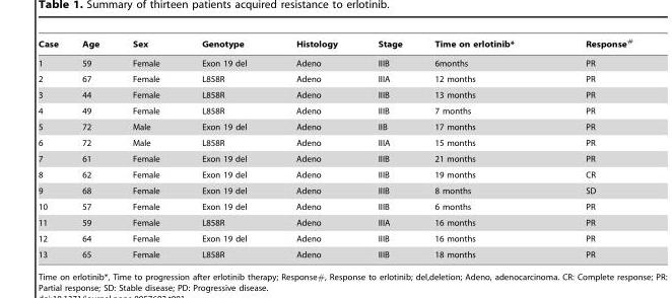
<table><thead><tr><td>Case</td><td>Age</td><td>Sex</td><td>Genotype</td><td>Histology</td><td>Stage</td><td>Time on erlotinib*</td><td>Response<sup>#</sup></td></tr></thead><tbody><tr><td>1</td><td>59</td><td>Female</td><td>Exon 19 del</td><td>Adeno</td><td>IIIB</td><td>6months</td><td>PR</td></tr><tr><td>2</td><td>67</td><td>Female</td><td>L858R</td><td>Adeno</td><td>IIIA</td><td>12 months</td><td>PR</td></tr><tr><td>3</td><td>44</td><td>Female</td><td>L858R</td><td>Adeno</td><td>IIIB</td><td>13 months</td><td>PR</td></tr><tr><td>4</td><td>49</td><td>Female</td><td>L858R</td><td>Adeno</td><td>IIIB</td><td>7 months</td><td>PR</td></tr><tr><td>5</td><td>72</td><td>Male</td><td>Exon 19 del</td><td>Adeno</td><td>IIB</td><td>17 months</td><td>PR</td></tr><tr><td>6</td><td>72</td><td>Male</td><td>L858R</td><td>Adeno</td><td>IIIA</td><td>15 months</td><td>PR</td></tr><tr><td>7</td><td>61</td><td>Female</td><td>Exon 19 del</td><td>Adeno</td><td>IIIB</td><td>21 months</td><td>PR</td></tr><tr><td>8</td><td>62</td><td>Female</td><td>Exon 19 del</td><td>Adeno</td><td>IIIB</td><td>19 months</td><td>CR</td></tr><tr><td>9</td><td>68</td><td>Female</td><td>Exon 19 del</td><td>Adeno</td><td>IIIB</td><td>8 months</td><td>SD</td></tr><tr><td>10</td><td>57</td><td>Female</td><td>Exon 19 del</td><td>Adeno</td><td>IIIB</td><td>6 months</td><td>PR</td></tr><tr><td>11</td><td>59</td><td>Female</td><td>L858R</td><td>Adeno</td><td>IIIA</td><td>16 months</td><td>PR</td></tr><tr><td>12</td><td>64</td><td>Female</td><td>Exon 19 del</td><td>Adeno</td><td>IIIB</td><td>16 months</td><td>PR</td></tr><tr><td>13</td><td>65</td><td>Female</td><td>L858R</td><td>Adeno</td><td>IIIB</td><td>18 months</td><td>PR</td></tr></tbody></table>